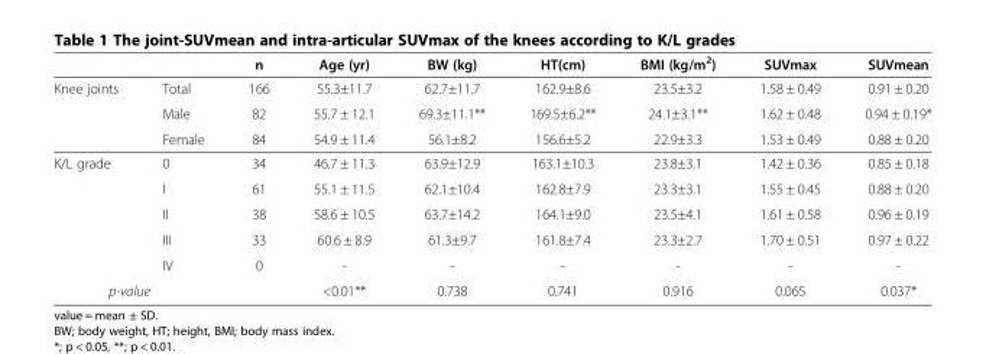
<table><thead><tr><td></td><td></td><td>n</td><td>Age (yr)</td><td>BW (kg)</td><td>HT(cm)</td><td>BMI (kg/m<sup>2</sup>)</td><td>SUVmax</td><td>SUVmean</td></tr></thead><tbody><tr><td rowspan="3">Knee joints</td><td>Total</td><td>166</td><td>55.3±11.7</td><td>62.7±11.7</td><td>162.9±8.6</td><td>23.5±3.2</td><td>1.58 ± 0.49</td><td>0.91 ± 0.20</td></tr><tr><td>Male</td><td>82</td><td>55.7 ± 12.1</td><td>69.3±11.1**</td><td>169.5±6.2**</td><td>24.1±3.1**</td><td>1.62 ± 0.48</td><td>0.94 ± 0.19*</td></tr><tr><td>Female</td><td>84</td><td>54.9 ± 11.4</td><td>56.1±8.2</td><td>156.6±5.2</td><td>22.9±3.3</td><td>1.53 ± 0.49</td><td>0.88 ± 0.20</td></tr><tr><td rowspan="5">K/L grade</td><td>0</td><td>34</td><td>46.7 ± 11.3</td><td>63.9±12.9</td><td>163.1±10.3</td><td>23.8±3.1</td><td>1.42 ± 0.36</td><td>0.85 ± 0.18</td></tr><tr><td>I</td><td>61</td><td>55.1 ± 11.5</td><td>62.1±10.4</td><td>162.8±7.9</td><td>23.3±3.1</td><td>1.55 ± 0.45</td><td>0.88 ± 0.20</td></tr><tr><td>II</td><td>38</td><td>58.6 ± 10.5</td><td>63.7±14.2</td><td>164.1±9.0</td><td>23.5±4.1</td><td>1.61 ± 0.58</td><td>0.96 ± 0.19</td></tr><tr><td>III</td><td>33</td><td>60.6 ± 8.9</td><td>61.3±9.7</td><td>161.8±7.4</td><td>23.3±2.7</td><td>1.70 ± 0.51</td><td>0.97 ± 0.22</td></tr><tr><td>IV</td><td>0</td><td>-</td><td>-</td><td>-</td><td>-</td><td>-</td><td>-</td></tr><tr><td colspan="2">p-value</td><td></td><td>&lt;0.01**</td><td>0.738</td><td>0.741</td><td>0.916</td><td>0.065</td><td>0.037*</td></tr></tbody></table>